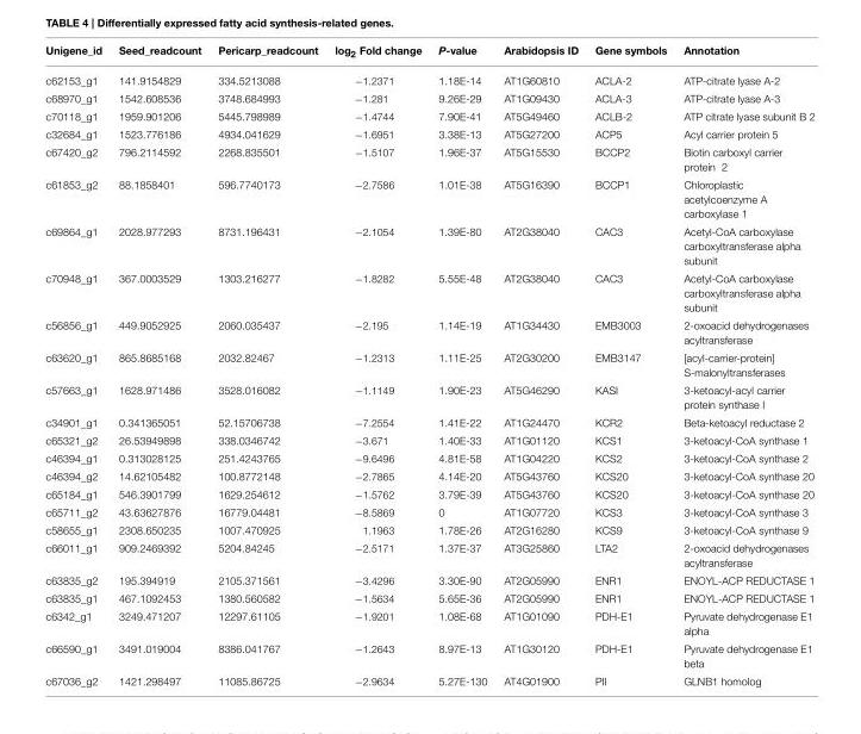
<table><thead><tr><td>Unigene_id</td><td>Seed_readcount</td><td>Pericarp_readcount</td><td>log<sub>2</sub> Fold change</td><td>P-value</td><td>Arabidopsis ID</td><td>Gene symbols</td><td>Annotation</td></tr></thead><tbody><tr><td>c62153_g1</td><td>141.9154829</td><td>334.5213088</td><td>−1.2371</td><td>1.18E-14</td><td>AT1G60810</td><td>ACLA-2</td><td>ATP-citrate lyase A-2</td></tr><tr><td>c68970_g1</td><td>1542.608536</td><td>3748.684993</td><td>−1.281</td><td>9.26E-29</td><td>AT1G09430</td><td>ACLA-3</td><td>ATP-citrate lyase A-3</td></tr><tr><td>c70118_g1</td><td>1959.901206</td><td>5445.798989</td><td>−1.4744</td><td>7.90E-41</td><td>AT5G49460</td><td>ACLB-2</td><td>ATP citrate lyase subunit B 2</td></tr><tr><td>c32684_g1</td><td>1523.776186</td><td>4934.041629</td><td>−1.6951</td><td>3.38E-13</td><td>AT5G27200</td><td>ACP5</td><td>Acyl carrier protein 5</td></tr><tr><td>c67420_g2</td><td>796.2114592</td><td>2268.835501</td><td>−1.5107</td><td>1.96E-37</td><td>AT5G15530</td><td>BCCP2</td><td>Biotin carboxyl carrier protein 2</td></tr><tr><td>c61853_g2</td><td>88.1858401</td><td>596.7740173</td><td>−2.7586</td><td>1.01E-38</td><td>AT5G16390</td><td>BCCP1</td><td>Chloroplastic acetylcoenzyme A carboxylase 1</td></tr><tr><td>c69864_g1</td><td>2028.977293</td><td>8731.196431</td><td>−2.1054</td><td>1.39E-80</td><td>AT2G38040</td><td>CAC3</td><td>Acetyl-CoA carboxylase carboxyltransferase alpha subunit</td></tr><tr><td>c70948_g1</td><td>367.0003529</td><td>1303.216277</td><td>−1.8282</td><td>5.55E-48</td><td>AT2G38040</td><td>CAC3</td><td>Acetyl-CoA carboxylase carboxyltransferase alpha subunit</td></tr><tr><td>c56856_g1</td><td>449.9052925</td><td>2060.035437</td><td>−2.195</td><td>1.14E-19</td><td>AT1G34430</td><td>EMB3003</td><td>2-oxoacid dehydrogenases acyltransferase</td></tr><tr><td>c63620_g1</td><td>865.8685168</td><td>2032.82467</td><td>−1.2313</td><td>1.11E-25</td><td>AT2G30200</td><td>EMB3147</td><td>[acyl-carrier-protein] S-malonyltransferases</td></tr><tr><td>c57663_g1</td><td>1628.971486</td><td>3528.016082</td><td>−1.1149</td><td>1.90E-23</td><td>AT5G46290</td><td>KASI</td><td>3-ketoacyl-acyl carrier protein synthase I</td></tr><tr><td>c34901_g1</td><td>0.341365051</td><td>52.15706738</td><td>−7.2554</td><td>1.41E-22</td><td>AT1G24470</td><td>KCR2</td><td>Beta-ketoacyl reductase 2</td></tr><tr><td>c65321_g2</td><td>26.53949898</td><td>338.0346742</td><td>−3.671</td><td>1.40E-33</td><td>AT1G01120</td><td>KCS1</td><td>3-ketoacyl-CoA synthase 1</td></tr><tr><td>c46394_g1</td><td>0.313028125</td><td>251.4243765</td><td>−9.6496</td><td>4.81E-58</td><td>AT1G04220</td><td>KCS2</td><td>3-ketoacyl-CoA synthase 2</td></tr><tr><td>c46394_g2</td><td>14.62105482</td><td>100.8772148</td><td>−2.7865</td><td>4.14E-20</td><td>AT5G43760</td><td>KCS20</td><td>3-ketoacyl-CoA synthase 20</td></tr><tr><td>c65184_g1</td><td>546.3901799</td><td>1629.254612</td><td>−1.5762</td><td>3.79E-39</td><td>AT5G43760</td><td>KCS20</td><td>3-ketoacyl-CoA synthase 20</td></tr><tr><td>c65711_g2</td><td>43.63627876</td><td>16779.04481</td><td>−8.5869</td><td>0</td><td>AT1G07720</td><td>KCS3</td><td>3-ketoacyl-CoA synthase 3</td></tr><tr><td>c58655_g1</td><td>2308.650235</td><td>1007.470925</td><td>1.1963</td><td>1.78E-26</td><td>AT2G16280</td><td>KCS9</td><td>3-ketoacyl-CoA synthase 9</td></tr><tr><td>c66011_g1</td><td>909.2469392</td><td>5204.84245</td><td>−2.5171</td><td>1.37E-37</td><td>AT3G25860</td><td>LTA2</td><td>2-oxoacid dehydrogenases acyltransferase</td></tr><tr><td>c63835_g2</td><td>195.394919</td><td>2105.371561</td><td>−3.4296</td><td>3.30E-90</td><td>AT2G05990</td><td>ENR1</td><td>ENOYL-ACP REDUCTASE 1</td></tr><tr><td>c63835_g1</td><td>467.1092453</td><td>1380.560582</td><td>−1.5634</td><td>5.65E-36</td><td>AT2G05990</td><td>ENR1</td><td>ENOYL-ACP REDUCTASE 1</td></tr><tr><td>c6342_g1</td><td>3249.471207</td><td>12297.61105</td><td>−1.9201</td><td>1.08E-68</td><td>AT1G01090</td><td>PDH-E1</td><td>Pyruvate dehydrogenase E1 alpha</td></tr><tr><td>c66590_g1</td><td>3491.019004</td><td>8386.041767</td><td>−1.2643</td><td>8.97E-13</td><td>AT1G30120</td><td>PDH-E1</td><td>Pyruvate dehydrogenase E1 beta</td></tr><tr><td>c67036_g2</td><td>1421.298497</td><td>11085.86725</td><td>−2.9634</td><td>5.27E-130</td><td>AT4G01900</td><td>PII</td><td>GLNB1 homolog</td></tr></tbody></table>